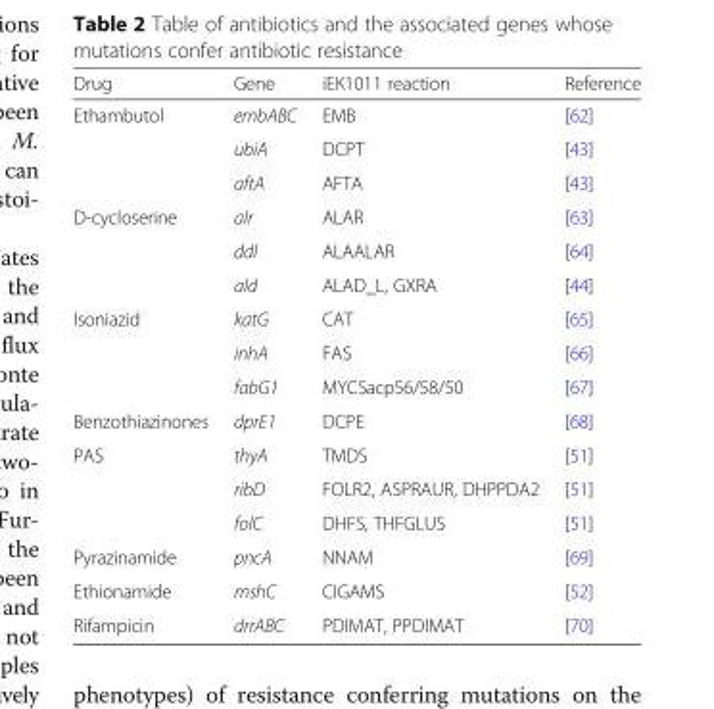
<table><thead><tr><td>Drug</td><td>Gene</td><td>iEK1011 reaction</td><td>Reference</td></tr></thead><tbody><tr><td rowspan="3">Ethambutol</td><td>embABC</td><td>EMB</td><td>[62]</td></tr><tr><td>ubiA</td><td>DCPT</td><td>[43]</td></tr><tr><td>aftA</td><td>AFTA</td><td>[43]</td></tr><tr><td rowspan="3">D-cycloserine</td><td>alr</td><td>ALAR</td><td>[63]</td></tr><tr><td>ddl</td><td>ALAALAR</td><td>[64]</td></tr><tr><td>ald</td><td>ALAD_L, GXRA</td><td>[44]</td></tr><tr><td rowspan="3">Isoniazid</td><td>katG</td><td>CAT</td><td>[65]</td></tr><tr><td>inhA</td><td>FAS</td><td>[66]</td></tr><tr><td>fabG1</td><td>MYCSacp56/58/50</td><td>[67]</td></tr><tr><td>Benzothiazinones</td><td>dprE1</td><td>DCPE</td><td>[68]</td></tr><tr><td rowspan="3">PAS</td><td>thyA</td><td>TMDS</td><td>[51]</td></tr><tr><td>ribD</td><td>FOLR2, ASPRAUR, DHPPDA2</td><td>[51]</td></tr><tr><td>folC</td><td>DHFS, THFGLUS</td><td>[51]</td></tr><tr><td>Pyrazinamide</td><td>pncA</td><td>NNAM</td><td>[69]</td></tr><tr><td>Ethionamide</td><td>mshC</td><td>CIGAMS</td><td>[52]</td></tr><tr><td>Rifampicin</td><td>drrABC</td><td>PDIMAT, PPDIMAT</td><td>[70]</td></tr></tbody></table>